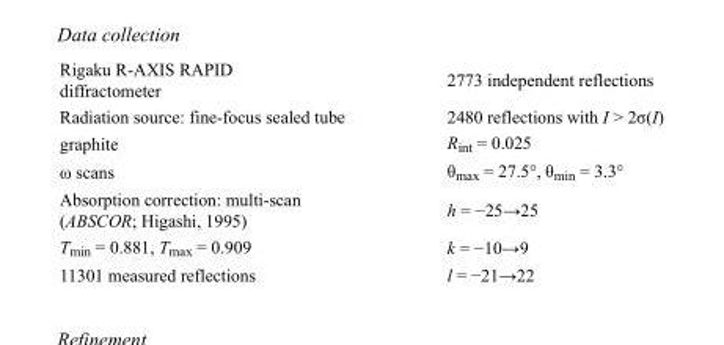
<table><tbody><tr><td>Rigaku R-AXIS RAPID diffractometer</td><td>2773 independent reflections</td></tr><tr><td>Radiation source: fine-focus sealed tube</td><td>2480 reflections with I &gt; 2σ(I)</td></tr><tr><td>graphite</td><td>R<sub>int</sub> = 0.025</td></tr><tr><td>ω scans</td><td>θ<sub>max</sub> = 27.5°, θ<sub>min</sub> = 3.3°</td></tr><tr><td>Absorption correction: multi-scan (ABSCOR; Higashi, 1995)</td><td>h = −25→25</td></tr><tr><td>T<sub>min</sub> = 0.881, T<sub>max</sub> = 0.909</td><td>k = −10→9</td></tr><tr><td>11301 measured reflections</td><td>l = −21→22</td></tr></tbody></table>